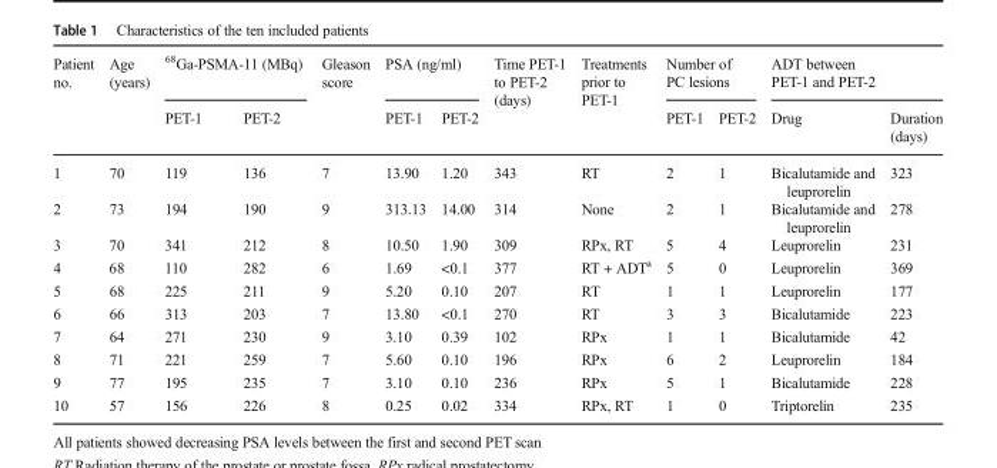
<table><thead><tr><td rowspan="2">Patient no.</td><td rowspan="2">Age (years)</td><td colspan="2"><sup>68</sup>Ga-PSMA-11 (MBq)</td><td rowspan="2">Gleason score</td><td colspan="2">PSA (ng/ml)</td><td rowspan="2">Time PET-1 to PET-2 (days)</td><td rowspan="2">Treatments prior to PET-1</td><td colspan="2">Number of PC lesions</td><td colspan="2">ADT between PET-1 and PET-2</td></tr><tr><td>PET-1</td><td>PET-2</td><td>PET-1</td><td>PET-2</td><td>PET-1</td><td>PET-2</td><td>Drug</td><td>Duration (days)</td></tr></thead><tbody><tr><td>1</td><td>70</td><td>119</td><td>136</td><td>7</td><td>13.90</td><td>1.20</td><td>343</td><td>RT</td><td>2</td><td>1</td><td>Bicalutamide and leuprorelin</td><td>323</td></tr><tr><td>2</td><td>73</td><td>194</td><td>190</td><td>9</td><td>313.13</td><td>14.00</td><td>314</td><td>None</td><td>2</td><td>1</td><td>Bicalutamide and leuprorelin</td><td>278</td></tr><tr><td>3</td><td>70</td><td>341</td><td>212</td><td>8</td><td>10.50</td><td>1.90</td><td>309</td><td>RPx, RT</td><td>5</td><td>4</td><td>Leuprorelin</td><td>231</td></tr><tr><td>4</td><td>68</td><td>110</td><td>282</td><td>6</td><td>1.69</td><td>&lt;0.1</td><td>377</td><td>RT + ADT<sup>a</sup></td><td>5</td><td>0</td><td>Leuprorelin</td><td>369</td></tr><tr><td>5</td><td>68</td><td>225</td><td>211</td><td>9</td><td>5.20</td><td>0.10</td><td>207</td><td>RT</td><td>1</td><td>1</td><td>Leuprorelin</td><td>177</td></tr><tr><td>6</td><td>66</td><td>313</td><td>203</td><td>7</td><td>13.80</td><td>&lt;0.1</td><td>270</td><td>RT</td><td>3</td><td>3</td><td>Bicalutamide</td><td>223</td></tr><tr><td>7</td><td>64</td><td>271</td><td>230</td><td>9</td><td>3.10</td><td>0.39</td><td>102</td><td>RPx</td><td>1</td><td>1</td><td>Bicalutamide</td><td>42</td></tr><tr><td>8</td><td>71</td><td>221</td><td>259</td><td>7</td><td>5.60</td><td>0.10</td><td>196</td><td>RPx</td><td>6</td><td>2</td><td>Leuprorelin</td><td>184</td></tr><tr><td>9</td><td>77</td><td>195</td><td>235</td><td>7</td><td>3.10</td><td>0.10</td><td>236</td><td>RPx</td><td>5</td><td>1</td><td>Bicalutamide</td><td>228</td></tr><tr><td>10</td><td>57</td><td>156</td><td>226</td><td>8</td><td>0.25</td><td>0.02</td><td>334</td><td>RPx, RT</td><td>1</td><td>0</td><td>Triptorelin</td><td>235</td></tr></tbody></table>